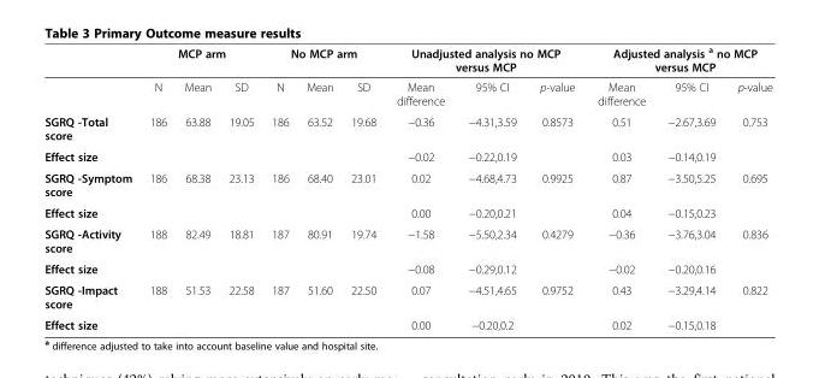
<table><thead><tr><td rowspan="2"></td><td colspan="3">MCP arm</td><td colspan="3">No MCP arm</td><td colspan="3">Unadjusted analysis no MCP versus MCP</td><td colspan="3">Adjusted analysis <sup>a</sup> no MCP versus MCP</td></tr><tr><td>N</td><td>Mean</td><td>SD</td><td>N</td><td>Mean</td><td>SD</td><td>Mean difference</td><td>95% CI</td><td>p-value</td><td>Mean difference</td><td>95% CI</td><td>p-value</td></tr></thead><tbody><tr><td>SGRQ -Total score</td><td>186</td><td>63.88</td><td>19.05</td><td>186</td><td>63.52</td><td>19.68</td><td>−0.36</td><td>−4.31,3.59</td><td>0.8573</td><td>0.51</td><td>−2.67,3.69</td><td>0.753</td></tr><tr><td>Effect size</td><td></td><td></td><td></td><td></td><td></td><td></td><td>−0.02</td><td>−0.22,0.19</td><td></td><td>0.03</td><td>−0.14,0.19</td><td></td></tr><tr><td>SGRQ -Symptom score</td><td>186</td><td>68.38</td><td>23.13</td><td>186</td><td>68.40</td><td>23.01</td><td>0.02</td><td>−4.68,4.73</td><td>0.9925</td><td>0.87</td><td>−3.50,5.25</td><td>0.695</td></tr><tr><td>Effect size</td><td></td><td></td><td></td><td></td><td></td><td></td><td>0.00</td><td>−0.20,0.21</td><td></td><td>0.04</td><td>−0.15,0.23</td><td></td></tr><tr><td>SGRQ -Activity score</td><td>188</td><td>82.49</td><td>18.81</td><td>187</td><td>80.91</td><td>19.74</td><td>−1.58</td><td>−5.50,2.34</td><td>0.4279</td><td>−0.36</td><td>−3.76,3.04</td><td>0.836</td></tr><tr><td>Effect size</td><td></td><td></td><td></td><td></td><td></td><td></td><td>−0.08</td><td>−0.29,0.12</td><td></td><td>−0.02</td><td>−0.20,0.16</td><td></td></tr><tr><td>SGRQ -Impact score</td><td>188</td><td>51.53</td><td>22.58</td><td>187</td><td>51.60</td><td>22.50</td><td>0.07</td><td>−4.51,4.65</td><td>0.9752</td><td>0.43</td><td>−3.29,4.14</td><td>0.822</td></tr><tr><td>Effect size</td><td></td><td></td><td></td><td></td><td></td><td></td><td>0.00</td><td>−0.20,0.2</td><td></td><td>0.02</td><td>−0.15,0.18</td><td></td></tr></tbody></table>